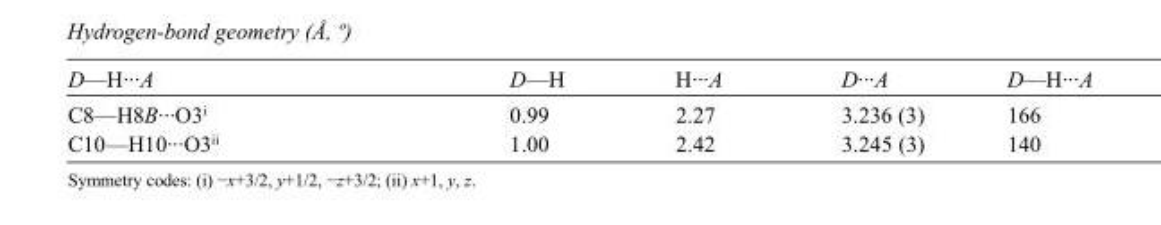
<table><tbody><tr><td>D—H···A</td><td>D—H</td><td>H···A</td><td>D···A</td><td>D—H···A</td></tr><tr><td>C8—H8B···O3<sup>i</sup></td><td>0.99</td><td>2.27</td><td>3.236 (3)</td><td>166</td></tr><tr><td>C10—H10···O3<sup>ii</sup></td><td>1.00</td><td>2.42</td><td>3.245 (3)</td><td>140</td></tr></tbody></table>